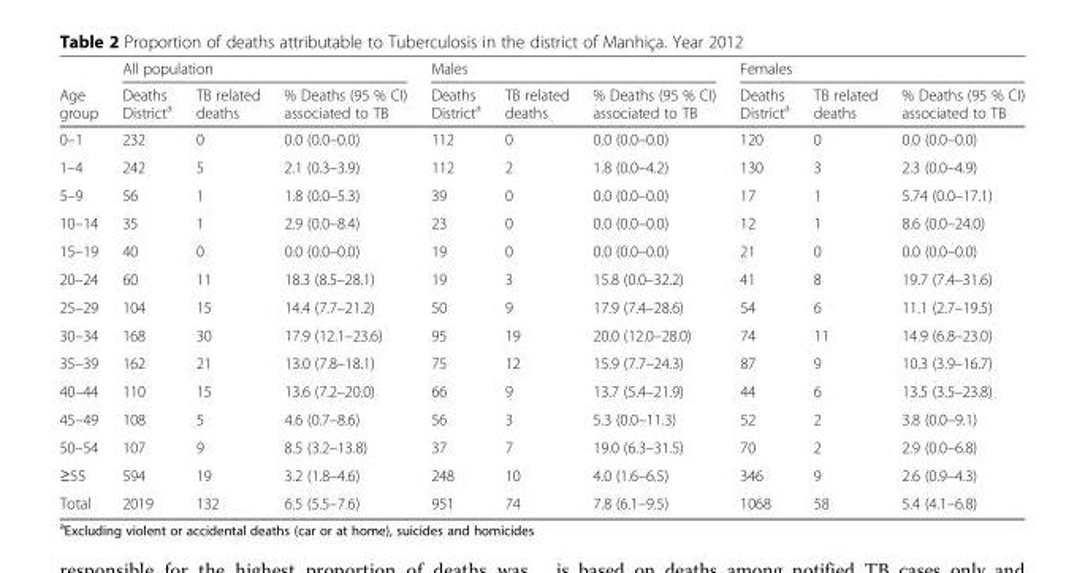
<table><thead><tr><td rowspan="2">Age group</td><td colspan="3">All population</td><td colspan="3">Males</td><td colspan="3">Females</td></tr><tr><td>Deaths District<sup>a</sup></td><td>TB related deaths</td><td>% Deaths (95 % CI) associated to TB</td><td>Deaths District<sup>a</sup></td><td>TB related deaths</td><td>% Deaths (95 % CI) associated to TB</td><td>Deaths District<sup>a</sup></td><td>TB related deaths</td><td>% Deaths (95 % CI) associated to TB</td></tr></thead><tbody><tr><td>0–1</td><td>232</td><td>0</td><td>0.0 (0.0–0.0)</td><td>112</td><td>0</td><td>0.0 (0.0–0.0)</td><td>120</td><td>0</td><td>0.0 (0.0–0.0)</td></tr><tr><td>1–4</td><td>242</td><td>5</td><td>2.1 (0.3–3.9)</td><td>112</td><td>2</td><td>1.8 (0.0–4.2)</td><td>130</td><td>3</td><td>2.3 (0.0–4.9)</td></tr><tr><td>5–9</td><td>56</td><td>1</td><td>1.8 (0.0–5.3)</td><td>39</td><td>0</td><td>0.0 (0.0–0.0)</td><td>17</td><td>1</td><td>5.74 (0.0–17.1)</td></tr><tr><td>10–14</td><td>35</td><td>1</td><td>2.9 (0.0–8.4)</td><td>23</td><td>0</td><td>0.0 (0.0–0.0)</td><td>12</td><td>1</td><td>8.6 (0.0–24.0)</td></tr><tr><td>15–19</td><td>40</td><td>0</td><td>0.0 (0.0–0.0)</td><td>19</td><td>0</td><td>0.0 (0.0–0.0)</td><td>21</td><td>0</td><td>0.0 (0.0–0.0)</td></tr><tr><td>20–24</td><td>60</td><td>11</td><td>18.3 (8.5–28.1)</td><td>19</td><td>3</td><td>15.8 (0.0–32.2)</td><td>41</td><td>8</td><td>19.7 (7.4–31.6)</td></tr><tr><td>25–29</td><td>104</td><td>15</td><td>14.4 (7.7–21.2)</td><td>50</td><td>9</td><td>17.9 (7.4–28.6)</td><td>54</td><td>6</td><td>11.1 (2.7–19.5)</td></tr><tr><td>30–34</td><td>168</td><td>30</td><td>17.9 (12.1–23.6)</td><td>95</td><td>19</td><td>20.0 (12.0–28.0)</td><td>74</td><td>11</td><td>14.9 (6.8–23.0)</td></tr><tr><td>35–39</td><td>162</td><td>21</td><td>13.0 (7.8–18.1)</td><td>75</td><td>12</td><td>15.9 (7.7–24.3)</td><td>87</td><td>9</td><td>10.3 (3.9–16.7)</td></tr><tr><td>40–44</td><td>110</td><td>15</td><td>13.6 (7.2–20.0)</td><td>66</td><td>9</td><td>13.7 (5.4–21.9)</td><td>44</td><td>6</td><td>13.5 (3.5–23.8)</td></tr><tr><td>45–49</td><td>108</td><td>5</td><td>4.6 (0.7–8.6)</td><td>56</td><td>3</td><td>5.3 (0.0–11.3)</td><td>52</td><td>2</td><td>3.8 (0.0–9.1)</td></tr><tr><td>50–54</td><td>107</td><td>9</td><td>8.5 (3.2–13.8)</td><td>37</td><td>7</td><td>19.0 (6.3–31.5)</td><td>70</td><td>2</td><td>2.9 (0.0–6.8)</td></tr><tr><td>≥55</td><td>594</td><td>19</td><td>3.2 (1.8–4.6)</td><td>248</td><td>10</td><td>4.0 (1.6–6.5)</td><td>346</td><td>9</td><td>2.6 (0.9–4.3)</td></tr><tr><td>Total</td><td>2019</td><td>132</td><td>6.5 (5.5–7.6)</td><td>951</td><td>74</td><td>7.8 (6.1–9.5)</td><td>1068</td><td>58</td><td>5.4 (4.1–6.8)</td></tr></tbody></table>